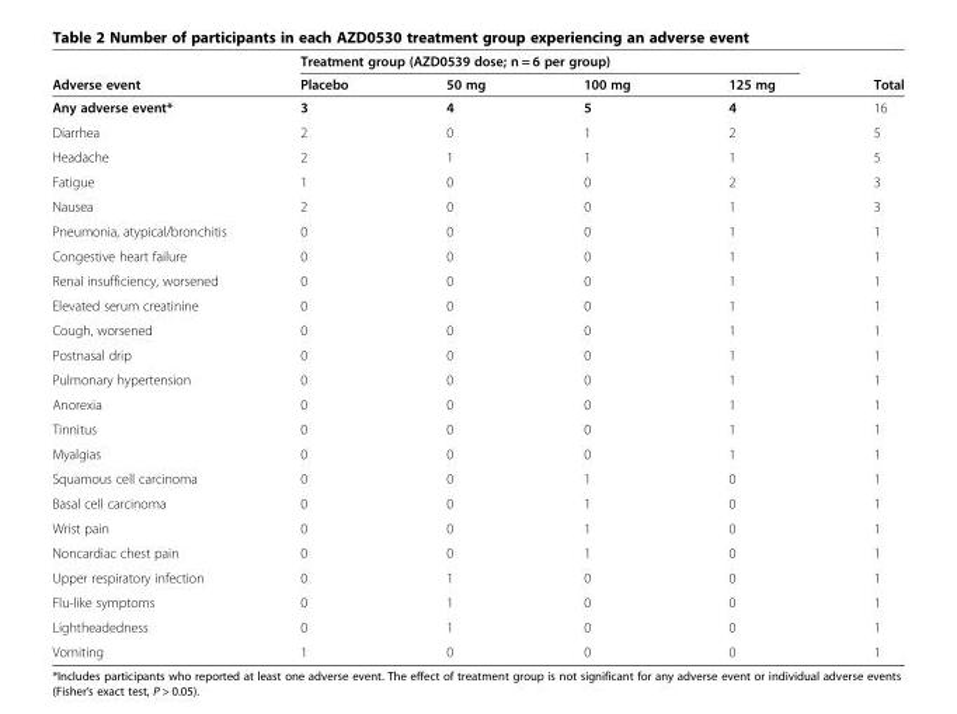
<table><thead><tr><td rowspan="2">Adverse event</td><td colspan="4">Treatment group (AZD0539 dose; n = 6 per group)</td><td rowspan="2">Total</td></tr><tr><td>Placebo</td><td>50 mg</td><td>100 mg</td><td>125 mg</td></tr></thead><tbody><tr><td>Any adverse event*</td><td>3</td><td>4</td><td>5</td><td>4</td><td>16</td></tr><tr><td>Diarrhea</td><td>2</td><td>0</td><td>1</td><td>2</td><td>5</td></tr><tr><td>Headache</td><td>2</td><td>1</td><td>1</td><td>1</td><td>5</td></tr><tr><td>Fatigue</td><td>1</td><td>0</td><td>0</td><td>2</td><td>3</td></tr><tr><td>Nausea</td><td>2</td><td>0</td><td>0</td><td>1</td><td>3</td></tr><tr><td>Pneumonia, atypical/bronchitis</td><td>0</td><td>0</td><td>0</td><td>1</td><td>1</td></tr><tr><td>Congestive heart failure</td><td>0</td><td>0</td><td>0</td><td>1</td><td>1</td></tr><tr><td>Renal insufficiency, worsened</td><td>0</td><td>0</td><td>0</td><td>1</td><td>1</td></tr><tr><td>Elevated serum creatinine</td><td>0</td><td>0</td><td>0</td><td>1</td><td>1</td></tr><tr><td>Cough, worsened</td><td>0</td><td>0</td><td>0</td><td>1</td><td>1</td></tr><tr><td>Postnasal drip</td><td>0</td><td>0</td><td>0</td><td>1</td><td>1</td></tr><tr><td>Pulmonary hypertension</td><td>0</td><td>0</td><td>0</td><td>1</td><td>1</td></tr><tr><td>Anorexia</td><td>0</td><td>0</td><td>0</td><td>1</td><td>1</td></tr><tr><td>Tinnitus</td><td>0</td><td>0</td><td>0</td><td>1</td><td>1</td></tr><tr><td>Myalgias</td><td>0</td><td>0</td><td>0</td><td>1</td><td>1</td></tr><tr><td>Squamous cell carcinoma</td><td>0</td><td>0</td><td>1</td><td>0</td><td>1</td></tr><tr><td>Basal cell carcinoma</td><td>0</td><td>0</td><td>1</td><td>0</td><td>1</td></tr><tr><td>Wrist pain</td><td>0</td><td>0</td><td>1</td><td>0</td><td>1</td></tr><tr><td>Noncardiac chest pain</td><td>0</td><td>0</td><td>1</td><td>0</td><td>1</td></tr><tr><td>Upper respiratory infection</td><td>0</td><td>1</td><td>0</td><td>0</td><td>1</td></tr><tr><td>Flu-like symptoms</td><td>0</td><td>1</td><td>0</td><td>0</td><td>1</td></tr><tr><td>Lightheadedness</td><td>0</td><td>1</td><td>0</td><td>0</td><td>1</td></tr><tr><td>Vomiting</td><td>1</td><td>0</td><td>0</td><td>0</td><td>1</td></tr></tbody></table>